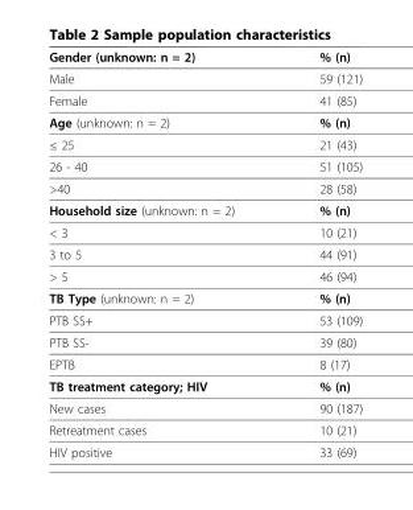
<table><thead><tr><td>Gender (unknown: n = 2)</td><td>% (n)</td></tr></thead><tbody><tr><td>Male</td><td>59 (121)</td></tr><tr><td>Female</td><td>41 (85)</td></tr><tr><td>Age (unknown: n = 2)</td><td>% (n)</td></tr><tr><td>≤ 25</td><td>21 (43)</td></tr><tr><td>26 - 40</td><td>51 (105)</td></tr><tr><td>&gt;40</td><td>28 (58)</td></tr><tr><td>Household size (unknown: n = 2)</td><td>% (n)</td></tr><tr><td>&lt; 3</td><td>10 (21)</td></tr><tr><td>3 to 5</td><td>44 (91)</td></tr><tr><td>&gt; 5</td><td>46 (94)</td></tr><tr><td>TB Type (unknown: n = 2)</td><td>% (n)</td></tr><tr><td>PTB SS+</td><td>53 (109)</td></tr><tr><td>PTB SS-</td><td>39 (80)</td></tr><tr><td>EPTB</td><td>8 (17)</td></tr><tr><td>TB treatment category; HIV</td><td>% (n)</td></tr><tr><td>New cases</td><td>90 (187)</td></tr><tr><td>Retreatment cases</td><td>10 (21)</td></tr><tr><td>HIV positive</td><td>33 (69)</td></tr></tbody></table>